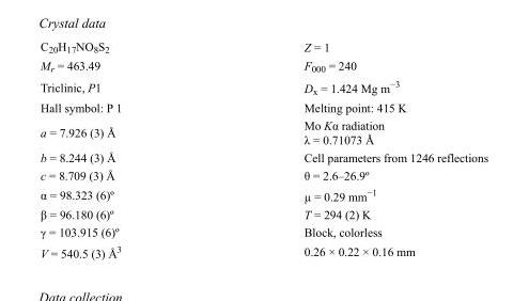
<table><tbody><tr><td>C<sub>20</sub>H<sub>17</sub>NO<sub>8</sub>S<sub>2</sub></td><td>Z = 1</td></tr><tr><td>M<sub>r</sub> = 463.49</td><td>F<sub>000</sub> = 240</td></tr><tr><td>Triclinic, P1</td><td>D<sub>x</sub> = 1.424 Mg m<sup>−3</sup></td></tr><tr><td>Hall symbol: P 1</td><td>Melting point: 415 K</td></tr><tr><td>a = 7.926 (3) Å</td><td>Mo Kα radiation λ = 0.71073 Å</td></tr><tr><td>b = 8.244 (3) Å</td><td>Cell parameters from 1246 reflections</td></tr><tr><td>c = 8.709 (3) Å</td><td>θ = 2.6–26.9º</td></tr><tr><td>α = 98.323 (6)º</td><td>µ = 0.29 mm<sup>−1</sup></td></tr><tr><td>β = 96.180 (6)º</td><td>T = 294 (2) K</td></tr><tr><td>γ = 103.915 (6)º</td><td>Block, colorless</td></tr><tr><td>V = 540.5 (3) Å<sup>3</sup></td><td>0.26 × 0.22 × 0.16 mm</td></tr></tbody></table>